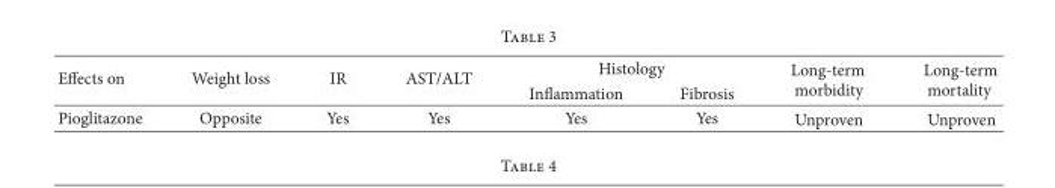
<table><thead><tr><td rowspan="2">Effects on</td><td rowspan="2">Weight loss</td><td rowspan="2">IR</td><td rowspan="2">AST/ALT</td><td colspan="2">Histology</td><td rowspan="2">Long-term morbidity</td><td rowspan="2">Long-term mortality</td></tr><tr><td>Inflammation</td><td>Fibrosis</td></tr></thead><tbody><tr><td>Pioglitazone</td><td>Opposite</td><td>Yes</td><td>Yes</td><td>Yes</td><td>Yes</td><td>Unproven</td><td>Unproven</td></tr></tbody></table>